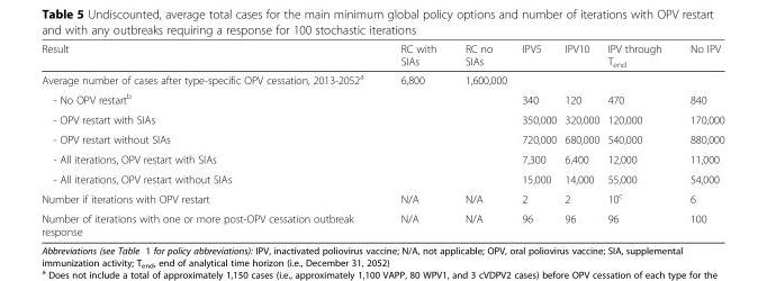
<table><thead><tr><td>Result</td><td>RC with SIAs</td><td>RC no SIAs</td><td>IPV5</td><td>IPV10</td><td>IPV through T<sub>end</sub></td><td>No IPV</td></tr></thead><tbody><tr><td>Average number of cases after type-specific OPV cessation, 2013-2052<sup>a</sup></td><td>6,800</td><td>1,600,000</td><td></td><td></td><td></td><td></td></tr><tr><td>- No OPV restart<sup>b</sup></td><td></td><td></td><td>340</td><td>120</td><td>470</td><td>840</td></tr><tr><td>- OPV restart with SIAs</td><td></td><td></td><td>350,000</td><td>320,000</td><td>120,000</td><td>170,000</td></tr><tr><td>- OPV restart without SIAs</td><td></td><td></td><td>720,000</td><td>680,000</td><td>540,000</td><td>880,000</td></tr><tr><td>- All iterations, OPV restart with SIAs</td><td></td><td></td><td>7,300</td><td>6,400</td><td>12,000</td><td>11,000</td></tr><tr><td>- All iterations, OPV restart without SIAs</td><td></td><td></td><td>15,000</td><td>14,000</td><td>55,000</td><td>54,000</td></tr><tr><td>Number if iterations with OPV restart</td><td>N/A</td><td>N/A</td><td>2</td><td>2</td><td>10<sup>c</sup></td><td>6</td></tr><tr><td>Number of iterations with one or more post-OPV cessation outbreak response</td><td>N/A</td><td>N/A</td><td>96</td><td>96</td><td>96</td><td>100</td></tr></tbody></table>